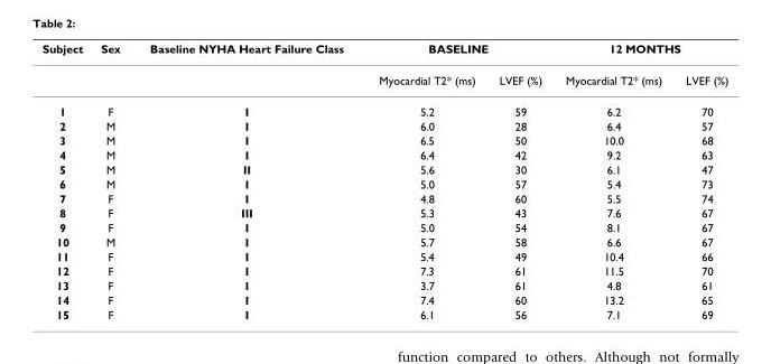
<table><thead><tr><td rowspan="2">Subject</td><td rowspan="2">Sex</td><td rowspan="2">Baseline NYHA Heart Failure Class</td><td colspan="2">BASELINE</td><td colspan="2">12 MONTHS</td></tr><tr><td>Myocardial T2* (ms)</td><td>LVEF (%)</td><td>Myocardial T2* (ms)</td><td>LVEF (%)</td></tr></thead><tbody><tr><td>1</td><td>F</td><td>I</td><td>5.2</td><td>59</td><td>6.2</td><td>70</td></tr><tr><td>2</td><td>M</td><td>I</td><td>6.0</td><td>28</td><td>6.4</td><td>57</td></tr><tr><td>3</td><td>M</td><td>I</td><td>6.5</td><td>50</td><td>10.0</td><td>68</td></tr><tr><td>4</td><td>M</td><td>I</td><td>6.4</td><td>42</td><td>9.2</td><td>63</td></tr><tr><td>5</td><td>M</td><td>II</td><td>5.6</td><td>30</td><td>6.1</td><td>47</td></tr><tr><td>6</td><td>M</td><td>I</td><td>5.0</td><td>57</td><td>5.4</td><td>73</td></tr><tr><td>7</td><td>F</td><td>I</td><td>4.8</td><td>60</td><td>5.5</td><td>74</td></tr><tr><td>8</td><td>F</td><td>III</td><td>5.3</td><td>43</td><td>7.6</td><td>67</td></tr><tr><td>9</td><td>F</td><td>I</td><td>5.0</td><td>54</td><td>8.1</td><td>67</td></tr><tr><td>10</td><td>M</td><td>I</td><td>5.7</td><td>58</td><td>6.6</td><td>67</td></tr><tr><td>11</td><td>F</td><td>I</td><td>5.4</td><td>49</td><td>10.4</td><td>66</td></tr><tr><td>12</td><td>F</td><td>I</td><td>7.3</td><td>61</td><td>11.5</td><td>70</td></tr><tr><td>13</td><td>F</td><td>I</td><td>3.7</td><td>61</td><td>4.8</td><td>61</td></tr><tr><td>14</td><td>F</td><td>I</td><td>7.4</td><td>60</td><td>13.2</td><td>65</td></tr><tr><td>15</td><td>F</td><td>I</td><td>6.1</td><td>56</td><td>7.1</td><td>69</td></tr></tbody></table>